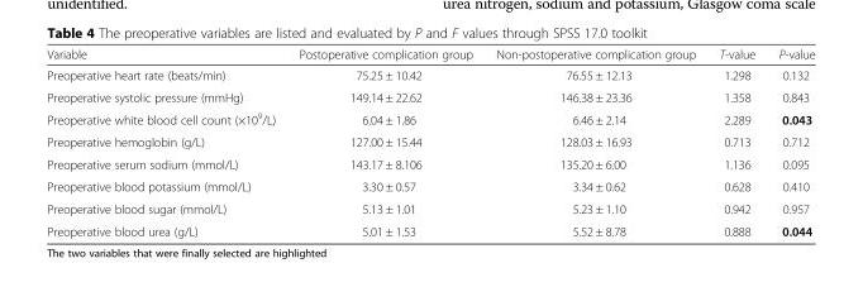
<table><thead><tr><td>Variable</td><td>Postoperative complication group</td><td>Non-postoperative complication group</td><td>T-value</td><td>P-value</td></tr></thead><tbody><tr><td>Preoperative heart rate (beats/min)</td><td>75.25 ± 10.42</td><td>76.55 ± 12.13</td><td>1.298</td><td>0.132</td></tr><tr><td>Preoperative systolic pressure (mmHg)</td><td>149.14 ± 22.62</td><td>146.38 ± 23.36</td><td>1.358</td><td>0.843</td></tr><tr><td>Preoperative white blood cell count (×10<sup>9</sup>/L)</td><td>6.04 ± 1.86</td><td>6.46 ± 2.14</td><td>2.289</td><td>0.043</td></tr><tr><td>Preoperative hemoglobin (g/L)</td><td>127.00 ± 15.44</td><td>128.03 ± 16.93</td><td>0.713</td><td>0.712</td></tr><tr><td>Preoperative serum sodium (mmol/L)</td><td>143.17 ± 8.106</td><td>135.20 ± 6.00</td><td>1.136</td><td>0.095</td></tr><tr><td>Preoperative blood potassium (mmol/L)</td><td>3.30 ± 0.57</td><td>3.34 ± 0.62</td><td>0.628</td><td>0.410</td></tr><tr><td>Preoperative blood sugar (mmol/L)</td><td>5.13 ± 1.01</td><td>5.23 ± 1.10</td><td>0.942</td><td>0.957</td></tr><tr><td>Preoperative blood urea (g/L)</td><td>5.01 ± 1.53</td><td>5.52 ± 8.78</td><td>0.888</td><td>0.044</td></tr></tbody></table>